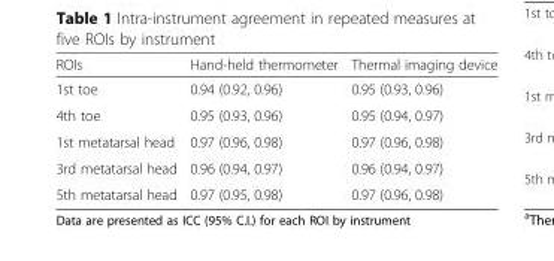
<table><thead><tr><td>ROIs</td><td>Hand-held thermometer</td><td>Thermal imaging device</td></tr></thead><tbody><tr><td>1st toe</td><td>0.94 (0.92, 0.96)</td><td>0.95 (0.93, 0.96)</td></tr><tr><td>4th toe</td><td>0.95 (0.93, 0.96)</td><td>0.95 (0.94, 0.97)</td></tr><tr><td>1st metatarsal head</td><td>0.97 (0.96, 0.98)</td><td>0.97 (0.96, 0.98)</td></tr><tr><td>3rd metatarsal head</td><td>0.96 (0.94, 0.97)</td><td>0.96 (0.94, 0.97)</td></tr><tr><td>5th metatarsal head</td><td>0.97 (0.95, 0.98)</td><td>0.97 (0.96, 0.98)</td></tr></tbody></table>